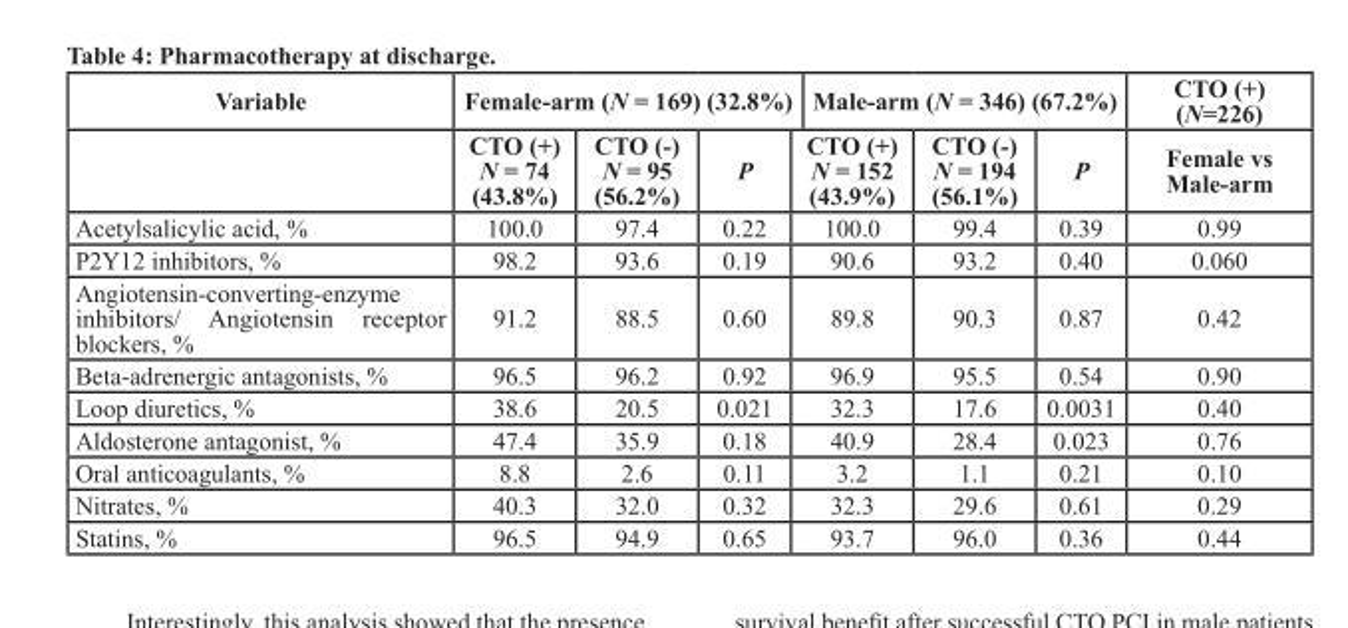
<table><thead><tr><td rowspan="2">Variable</td><td colspan="3">Female-arm (N = 169) (32.8%)</td><td colspan="3">Male-arm (N = 346) (67.2%)</td><td rowspan="2">CTO (+) (N=226) Female vs Male-arm</td></tr><tr><td>CTO (+) N = 74 (43.8%)</td><td>CTO (-) N = 95 (56.2%)</td><td>P</td><td>CTO (+) N = 152 (43.9%)</td><td>CTO (-) N = 194 (56.1%)</td><td>P</td></tr></thead><tbody><tr><td>Acetylsalicylic acid, %</td><td>100.0</td><td>97.4</td><td>0.22</td><td>100.0</td><td>99.4</td><td>0.39</td><td>0.99</td></tr><tr><td>P2Y12 inhibitors, %</td><td>98.2</td><td>93.6</td><td>0.19</td><td>90.6</td><td>93.2</td><td>0.40</td><td>0.060</td></tr><tr><td>Angiotensin-converting-enzyme inhibitors/ Angiotensin receptor blockers, %</td><td>91.2</td><td>88.5</td><td>0.60</td><td>89.8</td><td>90.3</td><td>0.87</td><td>0.42</td></tr><tr><td>Beta-adrenergic antagonists, %</td><td>96.5</td><td>96.2</td><td>0.92</td><td>96.9</td><td>95.5</td><td>0.54</td><td>0.90</td></tr><tr><td>Loop diuretics, %</td><td>38.6</td><td>20.5</td><td>0.021</td><td>32.3</td><td>17.6</td><td>0.0031</td><td>0.40</td></tr><tr><td>Aldosterone antagonist, %</td><td>47.4</td><td>35.9</td><td>0.18</td><td>40.9</td><td>28.4</td><td>0.023</td><td>0.76</td></tr><tr><td>Oral anticoagulants, %</td><td>8.8</td><td>2.6</td><td>0.11</td><td>3.2</td><td>1.1</td><td>0.21</td><td>0.10</td></tr><tr><td>Nitrates, %</td><td>40.3</td><td>32.0</td><td>0.32</td><td>32.3</td><td>29.6</td><td>0.61</td><td>0.29</td></tr><tr><td>Statins, %</td><td>96.5</td><td>94.9</td><td>0.65</td><td>93.7</td><td>96.0</td><td>0.36</td><td>0.44</td></tr></tbody></table>